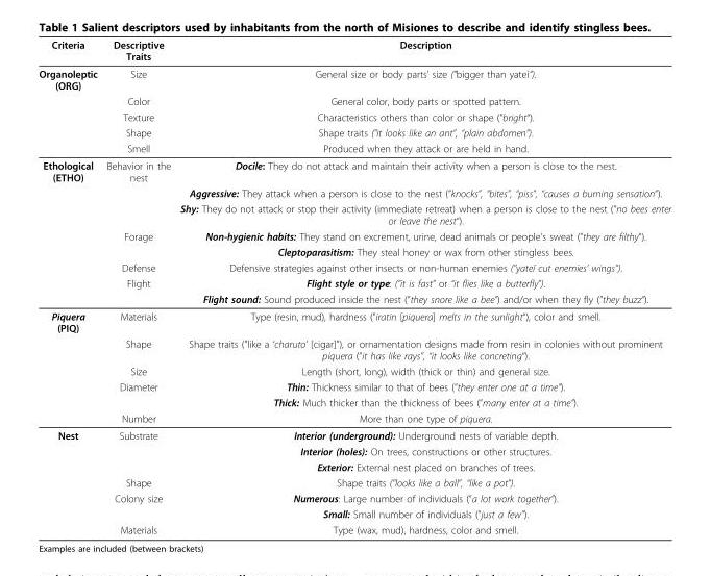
<table><thead><tr><td>Criteria</td><td>Descriptive Traits</td><td>Description</td></tr></thead><tbody><tr><td rowspan="5">Organoleptic (ORG)</td><td>Size</td><td>General size or body parts’ size (”bigger than yateí“).</td></tr><tr><td>Color</td><td>General color, body parts or spotted pattern.</td></tr><tr><td>Texture</td><td>Characteristics others than color or shape (”bright“).</td></tr><tr><td>Shape</td><td>Shape traits (&quot;it looks like an ant”, “plain abdomen”).</td></tr><tr><td>Smell</td><td>Produced when they attack or are held in hand.</td></tr><tr><td rowspan="8">Ethological (ETHO)</td><td>Behavior in the nest</td><td>Docile: They do not attack and maintain their activity when a person is close to the nest.</td></tr><tr><td></td><td>Aggressive: They attack when a person is close to the nest (”knocks”, “bites”, “piss”, “causes a burning sensation“).</td></tr><tr><td></td><td>Shy: They do not attack or stop their activity (immediate retreat) when a person is close to the nest (”no bees enter or leave the nest“).</td></tr><tr><td>Forage</td><td>Non-hygienic habits: They stand on excrement, urine, dead animals or people’s sweat (”they are filthy“).</td></tr><tr><td></td><td>Cleptoparasitism: They steal honey or wax from other stingless bees.</td></tr><tr><td>Defense</td><td>Defensive strategies against other insects or non-human enemies (&quot;yateí cut enemies’ wings”).</td></tr><tr><td>Flight</td><td>Flight style or type: (&quot;it is fast” or “it flies like a butterfly”).</td></tr><tr><td></td><td>Flight sound: Sound produced inside the nest (”they snore like a bee”) and/or when they fly (”they buzz”).</td></tr><tr><td rowspan="6">Piquera (PIQ)</td><td>Materials</td><td>Type (resin, mud), hardness (”iratin [piquera] melts in the sunlight“), color and smell.</td></tr><tr><td>Shape</td><td>Shape traits (&quot;like a ‘charuto’ [cigar]”), or ornamentation designs made from resin in colonies without prominent piquera (”it has like rays”, “it looks like concreting“).</td></tr><tr><td>Size</td><td>Length (short, long), width (thick or thin) and general size.</td></tr><tr><td>Diameter</td><td>Thin: Thickness similar to that of bees (”they enter one at a time”).</td></tr><tr><td></td><td>Thick: Much thicker than the thickness of bees (”many enter at a time”).</td></tr><tr><td>Number</td><td>More than one type of piquera.</td></tr><tr><td rowspan="7">Nest</td><td>Substrate</td><td>Interior (underground): Underground nests of variable depth.</td></tr><tr><td></td><td>Interior (holes): On trees, constructions or other structures.</td></tr><tr><td></td><td>Exterior: External nest placed on branches of trees.</td></tr><tr><td>Shape</td><td>Shape traits (&quot;looks like a ball”, “like a pot”).</td></tr><tr><td>Colony size</td><td>Numerous: Large number of individuals (”a lot work together”).</td></tr><tr><td></td><td>Small: Small number of individuals (”just a few”).</td></tr><tr><td>Materials</td><td>Type (wax, mud), hardness, color and smell.</td></tr></tbody></table>